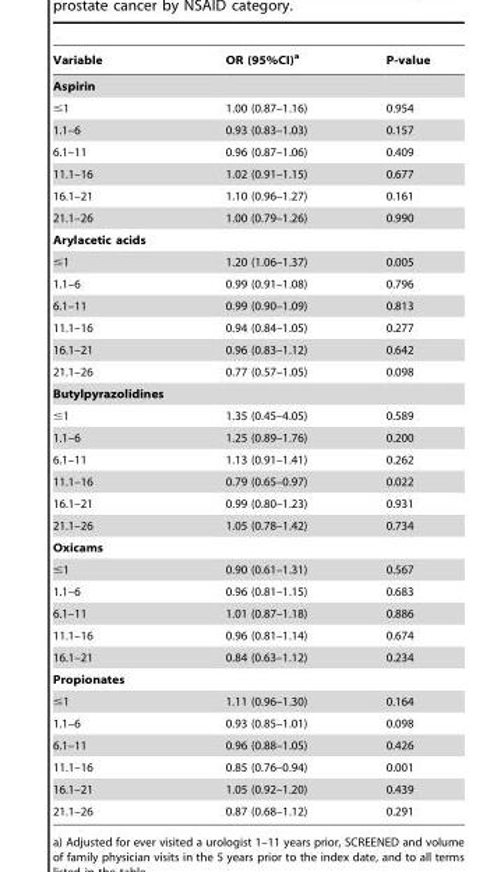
<table><thead><tr><td>Variable</td><td>OR (95%CI)<sup>a</sup></td><td>P-value</td></tr></thead><tbody><tr><td colspan="3">Aspirin</td></tr><tr><td>≤1</td><td>1.00 (0.87–1.16)</td><td>0.954</td></tr><tr><td>1.1–6</td><td>0.93 (0.83–1.03)</td><td>0.157</td></tr><tr><td>6.1–11</td><td>0.96 (0.87–1.06)</td><td>0.409</td></tr><tr><td>11.1–16</td><td>1.02 (0.91–1.15)</td><td>0.677</td></tr><tr><td>16.1–21</td><td>1.10 (0.96–1.27)</td><td>0.161</td></tr><tr><td>21.1–26</td><td>1.00 (0.79–1.26)</td><td>0.990</td></tr><tr><td colspan="3">Arylacetic acids</td></tr><tr><td>≤1</td><td>1.20 (1.06–1.37)</td><td>0.005</td></tr><tr><td>1.1–6</td><td>0.99 (0.91–1.08)</td><td>0.796</td></tr><tr><td>6.1–11</td><td>0.99 (0.90–1.09)</td><td>0.813</td></tr><tr><td>11.1–16</td><td>0.94 (0.84–1.05)</td><td>0.277</td></tr><tr><td>16.1–21</td><td>0.96 (0.83–1.12)</td><td>0.642</td></tr><tr><td>21.1–26</td><td>0.77 (0.57–1.05)</td><td>0.098</td></tr><tr><td colspan="3">Butylpyrazolidines</td></tr><tr><td>≤1</td><td>1.35 (0.45–4.05)</td><td>0.589</td></tr><tr><td>1.1–6</td><td>1.25 (0.89–1.76)</td><td>0.200</td></tr><tr><td>6.1–11</td><td>1.13 (0.91–1.41)</td><td>0.262</td></tr><tr><td>11.1–16</td><td>0.79 (0.65–0.97)</td><td>0.022</td></tr><tr><td>16.1–21</td><td>0.99 (0.80–1.23)</td><td>0.931</td></tr><tr><td>21.1–26</td><td>1.05 (0.78–1.42)</td><td>0.734</td></tr><tr><td colspan="3">Oxicams</td></tr><tr><td>≤1</td><td>0.90 (0.61–1.31)</td><td>0.567</td></tr><tr><td>1.1–6</td><td>0.96 (0.81–1.15)</td><td>0.683</td></tr><tr><td>6.1–11</td><td>1.01 (0.87–1.18)</td><td>0.886</td></tr><tr><td>11.1–16</td><td>0.96 (0.81–1.14)</td><td>0.674</td></tr><tr><td>16.1–21</td><td>0.84 (0.63–1.12)</td><td>0.234</td></tr><tr><td colspan="3">Propionates</td></tr><tr><td>≤1</td><td>1.11 (0.96–1.30)</td><td>0.164</td></tr><tr><td>1.1–6</td><td>0.93 (0.85–1.01)</td><td>0.098</td></tr><tr><td>6.1–11</td><td>0.96 (0.88–1.05)</td><td>0.426</td></tr><tr><td>11.1–16</td><td>0.85 (0.76–0.94)</td><td>0.001</td></tr><tr><td>16.1–21</td><td>1.05 (0.92–1.20)</td><td>0.439</td></tr><tr><td>21.1–26</td><td>0.87 (0.68–1.12)</td><td>0.291</td></tr></tbody></table>